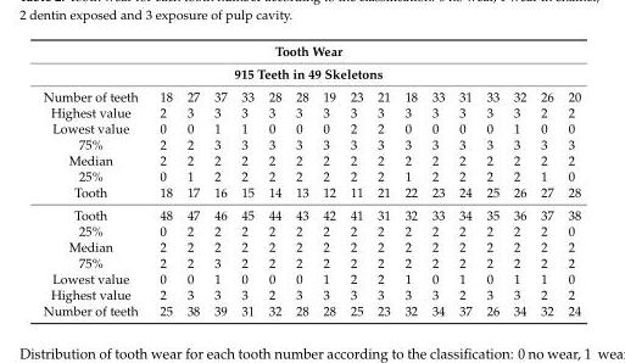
<table><thead><tr><td rowspan="2" colspan="17">Tooth Wear 915 Teeth in 49 Skeletons</td></tr><tr></tr><tr><td>Number of teeth</td><td>18</td><td>27</td><td>37</td><td>33</td><td>28</td><td>28</td><td>19</td><td>23</td><td>21</td><td>18</td><td>33</td><td>31</td><td>33</td><td>32</td><td>26</td><td>20</td></tr></thead><tbody><tr><td>Highest value</td><td>2</td><td>3</td><td>3</td><td>3</td><td>3</td><td>3</td><td>3</td><td>3</td><td>3</td><td>3</td><td>3</td><td>3</td><td>3</td><td>3</td><td>2</td><td>2</td></tr><tr><td>Lowest value</td><td>0</td><td>0</td><td>1</td><td>1</td><td>0</td><td>0</td><td>0</td><td>2</td><td>2</td><td>0</td><td>0</td><td>0</td><td>0</td><td>1</td><td>0</td><td>0</td></tr><tr><td>75%</td><td>2</td><td>2</td><td>3</td><td>3</td><td>3</td><td>3</td><td>3</td><td>3</td><td>3</td><td>3</td><td>3</td><td>3</td><td>3</td><td>3</td><td>3</td><td>3</td></tr><tr><td>Median</td><td>2</td><td>2</td><td>2</td><td>2</td><td>2</td><td>2</td><td>2</td><td>2</td><td>2</td><td>2</td><td>2</td><td>2</td><td>2</td><td>2</td><td>2</td><td>2</td></tr><tr><td>25%</td><td>0</td><td>1</td><td>2</td><td>2</td><td>2</td><td>2</td><td>2</td><td>2</td><td>2</td><td>1</td><td>2</td><td>2</td><td>2</td><td>2</td><td>1</td><td>0</td></tr><tr><td>Tooth</td><td>18</td><td>17</td><td>16</td><td>15</td><td>14</td><td>13</td><td>12</td><td>11</td><td>21</td><td>22</td><td>23</td><td>24</td><td>25</td><td>26</td><td>27</td><td>28</td></tr><tr><td>Tooth</td><td>48</td><td>47</td><td>46</td><td>45</td><td>44</td><td>43</td><td>42</td><td>41</td><td>31</td><td>32</td><td>33</td><td>34</td><td>35</td><td>36</td><td>37</td><td>38</td></tr><tr><td>25%</td><td>0</td><td>2</td><td>2</td><td>2</td><td>2</td><td>2</td><td>2</td><td>2</td><td>2</td><td>2</td><td>2</td><td>2</td><td>2</td><td>2</td><td>2</td><td>0</td></tr><tr><td>Median</td><td>2</td><td>2</td><td>2</td><td>2</td><td>2</td><td>2</td><td>2</td><td>2</td><td>2</td><td>2</td><td>2</td><td>2</td><td>2</td><td>2</td><td>2</td><td>2</td></tr><tr><td>75%</td><td>2</td><td>2</td><td>3</td><td>2</td><td>2</td><td>2</td><td>2</td><td>2</td><td>2</td><td>2</td><td>2</td><td>2</td><td>2</td><td>2</td><td>2</td><td>2</td></tr><tr><td>Lowest value</td><td>0</td><td>0</td><td>1</td><td>0</td><td>0</td><td>0</td><td>1</td><td>2</td><td>2</td><td>1</td><td>0</td><td>1</td><td>0</td><td>1</td><td>1</td><td>0</td></tr><tr><td>Highest value</td><td>2</td><td>3</td><td>3</td><td>3</td><td>2</td><td>3</td><td>3</td><td>3</td><td>3</td><td>3</td><td>3</td><td>2</td><td>3</td><td>3</td><td>2</td><td>2</td></tr><tr><td>Number of teeth</td><td>25</td><td>38</td><td>39</td><td>31</td><td>32</td><td>28</td><td>28</td><td>25</td><td>23</td><td>32</td><td>34</td><td>37</td><td>26</td><td>34</td><td>32</td><td>24</td></tr></tbody></table>